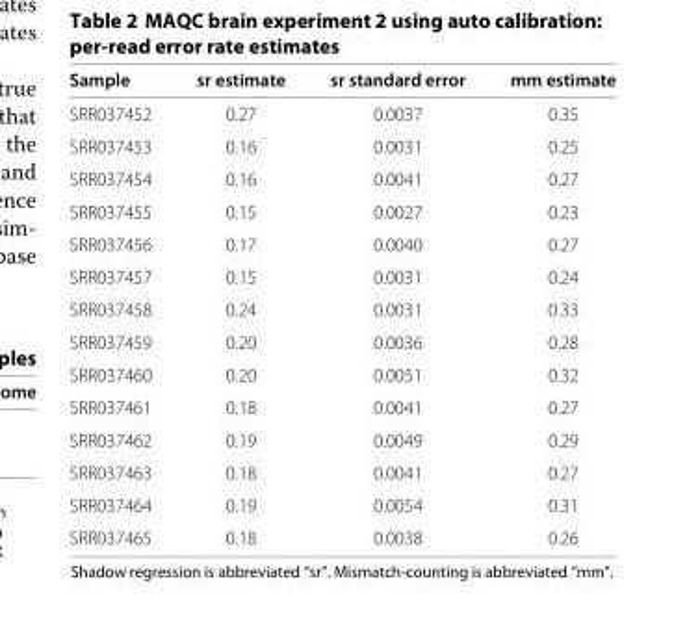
<table><thead><tr><td>Sample</td><td>sr estimate</td><td>sr standard error</td><td>mm estimate</td></tr></thead><tbody><tr><td>SRR037452</td><td>0.27</td><td>0.0037</td><td>0.35</td></tr><tr><td>SRR037453</td><td>0.16</td><td>0.0031</td><td>0.25</td></tr><tr><td>SRR037454</td><td>0.16</td><td>0.0041</td><td>0.27</td></tr><tr><td>SRR037455</td><td>0.15</td><td>0.0027</td><td>0.23</td></tr><tr><td>SRR037456</td><td>0.17</td><td>0.0040</td><td>0.27</td></tr><tr><td>SRR037457</td><td>0.15</td><td>0.0031</td><td>0.24</td></tr><tr><td>SRR037458</td><td>0.24</td><td>0.0031</td><td>0.33</td></tr><tr><td>SRR037459</td><td>0.20</td><td>0.0036</td><td>0.28</td></tr><tr><td>SRR037460</td><td>0.20</td><td>0.0051</td><td>0.32</td></tr><tr><td>SRR037461</td><td>0.18</td><td>0.0041</td><td>0.27</td></tr><tr><td>SRR037462</td><td>0.19</td><td>0.0049</td><td>0.29</td></tr><tr><td>SRR037463</td><td>0.18</td><td>0.0041</td><td>0.27</td></tr><tr><td>SRR037464</td><td>0.19</td><td>0.0054</td><td>0.31</td></tr><tr><td>SRR037465</td><td>0.18</td><td>0.0038</td><td>0.26</td></tr></tbody></table>